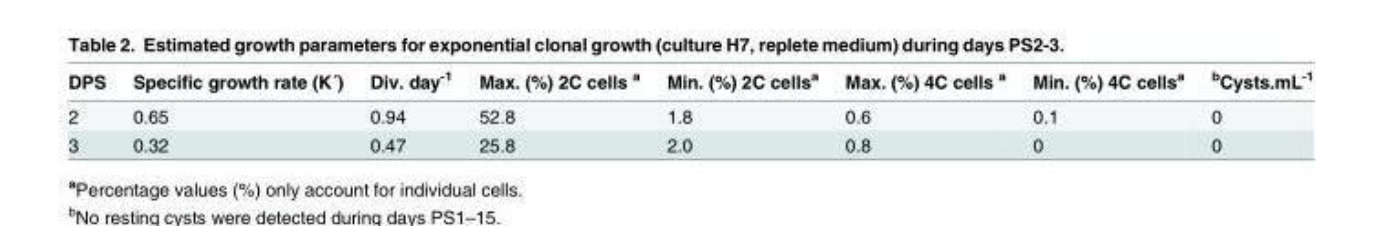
<table><thead><tr><td>DPS</td><td>Specific growth rate (K´)</td><td>Div. day<sup>-1</sup></td><td>Max. (%) 2C cells <sup>a</sup></td><td>Min. (%) 2C cells<sup>a</sup></td><td>Max. (%) 4C cells <sup>a</sup></td><td>Min. (%) 4C cells<sup>a</sup></td><td><sup>b</sup>Cysts.mL<sup>-1</sup></td></tr></thead><tbody><tr><td>2</td><td>0.65</td><td>0.94</td><td>52.8</td><td>1.8</td><td>0.6</td><td>0.1</td><td>0</td></tr><tr><td>3</td><td>0.32</td><td>0.47</td><td>25.8</td><td>2.0</td><td>0.8</td><td>0</td><td>0</td></tr></tbody></table>